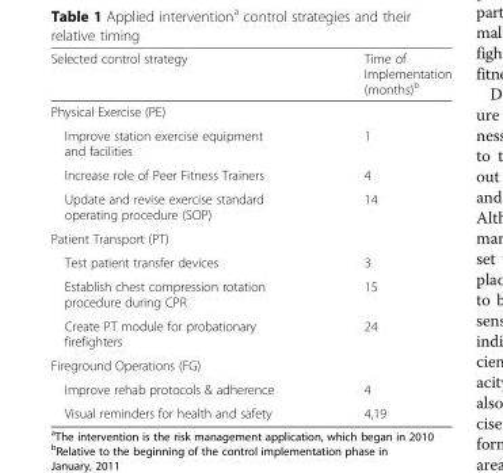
<table><thead><tr><td>Selected control strategy</td><td>Time of Implementation (months)<sup>b</sup></td></tr></thead><tbody><tr><td colspan="2">Physical Exercise (PE)</td></tr><tr><td>Improve station exercise equipment and facilities</td><td>1</td></tr><tr><td>Increase role of Peer Fitness Trainers</td><td>4</td></tr><tr><td>Update and revise exercise standard operating procedure (SOP)</td><td>14</td></tr><tr><td colspan="2">Patient Transport (PT)</td></tr><tr><td>Test patient transfer devices</td><td>3</td></tr><tr><td>Establish chest compression rotation procedure during CPR</td><td>15</td></tr><tr><td>Create PT module for probationary firefighters</td><td>24</td></tr><tr><td colspan="2">Fireground Operations (FG)</td></tr><tr><td>Improve rehab protocols &amp; adherence</td><td>4</td></tr><tr><td>Visual reminders for health and safety</td><td>4,19</td></tr></tbody></table>